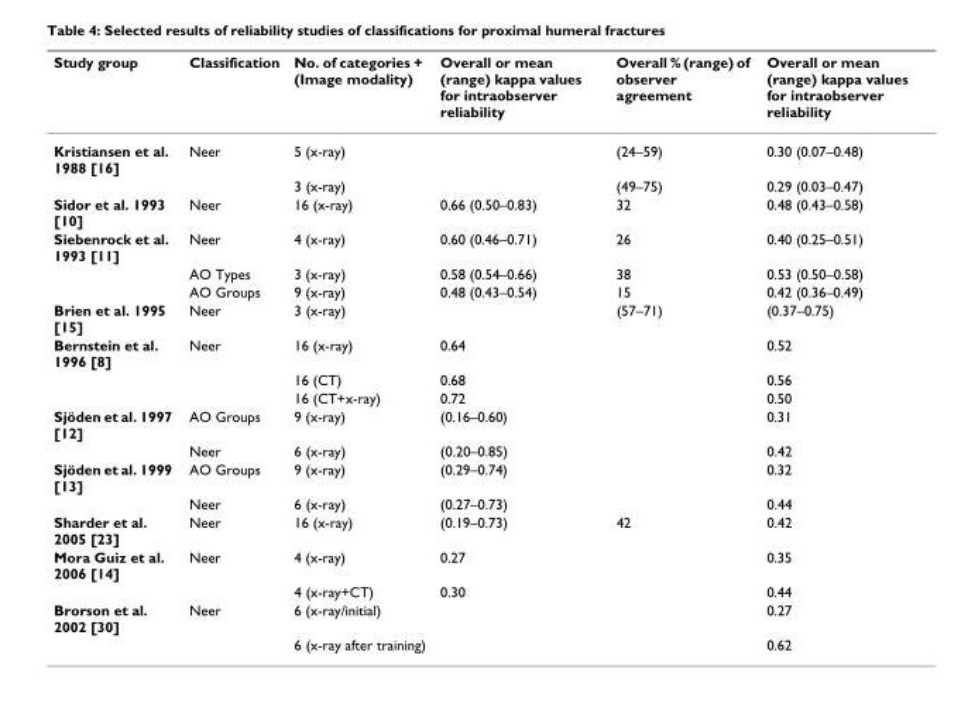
<table><thead><tr><td>Study group</td><td>Classification</td><td>No. of categories + (Image modality)</td><td>Overall or mean (range) kappa values for intraobserver reliability</td><td>Overall % (range) of observer agreement</td><td>Overall or mean (range) kappa values for intraobserver reliability</td></tr></thead><tbody><tr><td rowspan="2">Kristiansen et al. 1988 [16]</td><td>Neer</td><td>5 (x-ray)</td><td></td><td>(24–59)</td><td>0.30 (0.07–0.48)</td></tr><tr><td></td><td>3 (x-ray)</td><td></td><td>(49–75)</td><td>0.29 (0.03–0.47)</td></tr><tr><td>Sidor et al. 1993 [10]</td><td>Neer</td><td>16 (x-ray)</td><td>0.66 (0.50–0.83)</td><td>32</td><td>0.48 (0.43–0.58)</td></tr><tr><td rowspan="3">Siebenrock et al. 1993 [11]</td><td>Neer</td><td>4 (x-ray)</td><td>0.60 (0.46–0.71)</td><td>26</td><td>0.40 (0.25–0.51)</td></tr><tr><td>AO Types</td><td>3 (x-ray)</td><td>0.58 (0.54–0.66)</td><td>38</td><td>0.53 (0.50–0.58)</td></tr><tr><td>AO Groups</td><td>9 (x-ray)</td><td>0.48 (0.43–0.54)</td><td>15</td><td>0.42 (0.36–0.49)</td></tr><tr><td>Brien et al. 1995 [15]</td><td>Neer</td><td>3 (x-ray)</td><td></td><td>(57–71)</td><td>(0.37–0.75)</td></tr><tr><td rowspan="3">Bernstein et al. 1996 [8]</td><td>Neer</td><td>16 (x-ray)</td><td>0.64</td><td></td><td>0.52</td></tr><tr><td></td><td>16 (CT)</td><td>0.68</td><td></td><td>0.56</td></tr><tr><td></td><td>16 (CT+x-ray)</td><td>0.72</td><td></td><td>0.50</td></tr><tr><td rowspan="2">Sjöden et al. 1997 [12]</td><td>AO Groups</td><td>9 (x-ray)</td><td>(0.16–0.60)</td><td></td><td>0.31</td></tr><tr><td>Neer</td><td>6 (x-ray)</td><td>(0.20–0.85)</td><td></td><td>0.42</td></tr><tr><td rowspan="2">Sjöden et al. 1999 [13]</td><td>AO Groups</td><td>9 (x-ray)</td><td>(0.29–0.74)</td><td></td><td>0.32</td></tr><tr><td>Neer</td><td>6 (x-ray)</td><td>(0.27–0.73)</td><td></td><td>0.44</td></tr><tr><td>Sharder et al. 2005 [23]</td><td>Neer</td><td>16 (x-ray)</td><td>(0.19–0.73)</td><td>42</td><td>0.42</td></tr><tr><td rowspan="2">Mora Guiz et al. 2006 [14]</td><td>Neer</td><td>4 (x-ray)</td><td>0.27</td><td></td><td>0.35</td></tr><tr><td></td><td>4 (x-ray+CT)</td><td>0.30</td><td></td><td>0.44</td></tr><tr><td rowspan="2">Brorson et al. 2002 [30]</td><td>Neer</td><td>6 (x-ray/initial)</td><td></td><td></td><td>0.27</td></tr><tr><td></td><td>6 (x-ray after training)</td><td></td><td></td><td>0.62</td></tr></tbody></table>